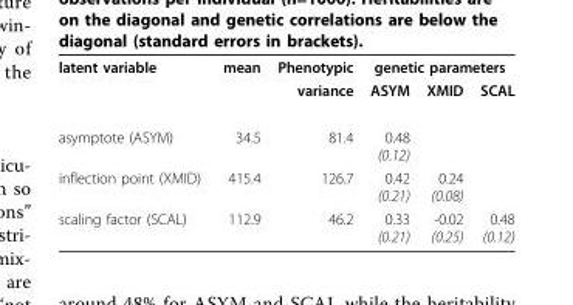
<table><tbody><tr><td rowspan="2">latent variable</td><td>mean</td><td>Phenotypic</td><td colspan="3">genetic parameters</td></tr><tr><td></td><td>variance</td><td>ASYM</td><td>XMID</td><td>SCAL</td></tr><tr><td>asymptote (ASYM)</td><td>34.5</td><td>81.4</td><td>0.48 (0.12)</td><td></td><td></td></tr><tr><td>inflection point (XMID)</td><td>415.4</td><td>126.7</td><td>0.42 (0.21)</td><td>0.24 (0.08)</td><td></td></tr><tr><td>scaling factor (SCAL)</td><td>112.9</td><td>46.2</td><td>0.33 (0.21)</td><td>-0.02 (0.25)</td><td>0.48 (0.12)</td></tr></tbody></table>